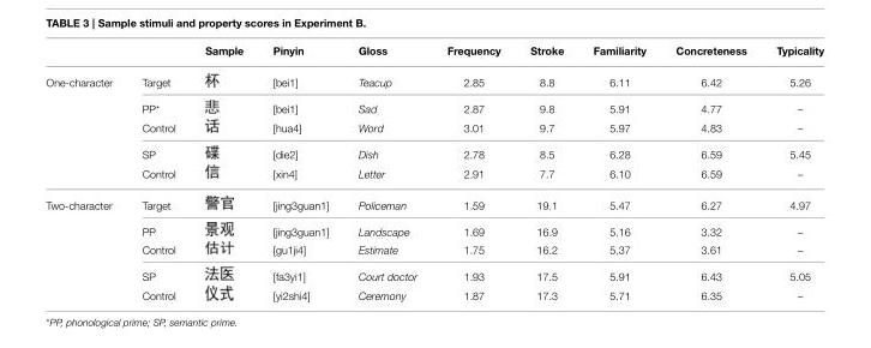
<table><thead><tr><td></td><td></td><td>Sample</td><td>Pinyin</td><td>Gloss</td><td>Frequency</td><td>Stroke</td><td>Familiarity</td><td>Concreteness</td><td>Typicality</td></tr></thead><tbody><tr><td rowspan="5">One-character</td><td>Target</td><td></td><td>[bei1]</td><td>Teacup</td><td>2.85</td><td>8.8</td><td>6.11</td><td>6.42</td><td>5.26</td></tr><tr><td>PP*</td><td></td><td>[bei1]</td><td>Sad</td><td>2.87</td><td>9.8</td><td>5.91</td><td>4.77</td><td>–</td></tr><tr><td>Control</td><td></td><td>[hua4]</td><td>Word</td><td>3.01</td><td>9.7</td><td>5.97</td><td>4.83</td><td>–</td></tr><tr><td>SP</td><td></td><td>[die2]</td><td>Dish</td><td>2.78</td><td>8.5</td><td>6.28</td><td>6.59</td><td>5.45</td></tr><tr><td>Control</td><td></td><td>[xin4]</td><td>Letter</td><td>2.91</td><td>7.7</td><td>6.10</td><td>6.59</td><td>–</td></tr><tr><td rowspan="5">Two-character</td><td>Target</td><td></td><td>[jing3guan1]</td><td>Policeman</td><td>1.59</td><td>19.1</td><td>5.47</td><td>6.27</td><td>4.97</td></tr><tr><td>PP</td><td></td><td>[jing3guan1]</td><td>Landscape</td><td>1.69</td><td>16.9</td><td>5.16</td><td>3.32</td><td>–</td></tr><tr><td>Control</td><td></td><td>[gu1ji4]</td><td>Estimate</td><td>1.75</td><td>16.2</td><td>5.37</td><td>3.61</td><td>–</td></tr><tr><td>SP</td><td></td><td>[fa3yi1]</td><td>Court doctor</td><td>1.93</td><td>17.5</td><td>5.91</td><td>6.43</td><td>5.05</td></tr><tr><td>Control</td><td></td><td>[yi2shi4]</td><td>Ceremony</td><td>1.87</td><td>17.3</td><td>5.71</td><td>6.35</td><td>–</td></tr></tbody></table>